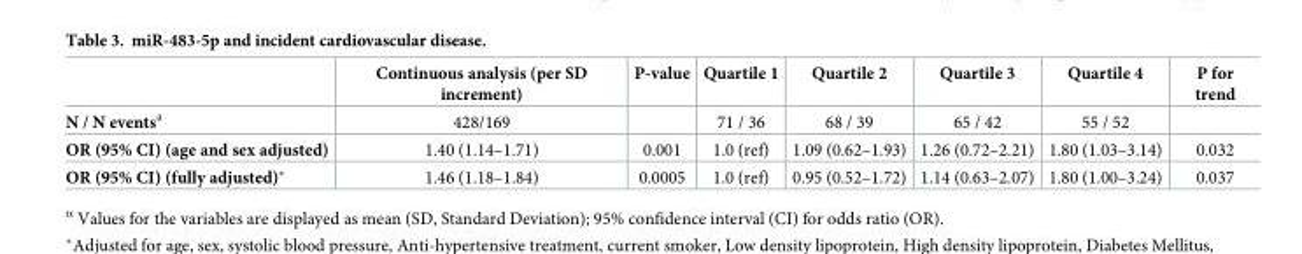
<table><thead><tr><td></td><td>Continuous analysis (per SD increment)</td><td>P-value</td><td>Quartile 1</td><td>Quartile 2</td><td>Quartile 3</td><td>Quartile 4</td><td>P for trend</td></tr></thead><tbody><tr><td>N / N events<sup>a</sup></td><td>428/169</td><td></td><td>71 / 36</td><td>68 / 39</td><td>65 / 42</td><td>55 / 52</td><td></td></tr><tr><td>OR (95% CI) (age and sex adjusted)</td><td>1.40 (1.14–1.71)</td><td>0.001</td><td>1.0 (ref)</td><td>1.09 (0.62–1.93)</td><td>1.26 (0.72–2.21)</td><td>1.80 (1.03–3.14)</td><td>0.032</td></tr><tr><td>OR (95% CI) (fully adjusted)*</td><td>1.46 (1.18–1.84)</td><td>0.0005</td><td>1.0 (ref)</td><td>0.95 (0.52–1.72)</td><td>1.14 (0.63–2.07)</td><td>1.80 (1.00–3.24)</td><td>0.037</td></tr></tbody></table>